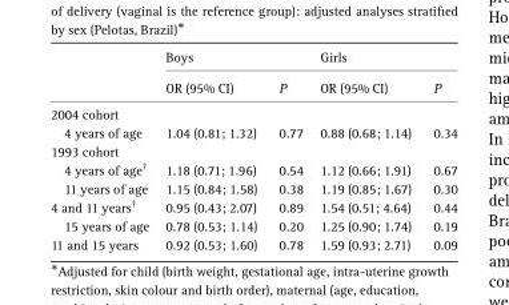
<table><thead><tr><td rowspan="2"></td><td colspan="2">Boys</td><td colspan="2">Girls</td></tr><tr><td>OR (95% CI)</td><td>P</td><td>OR (95% CI)</td><td>P</td></tr></thead><tbody><tr><td colspan="5">2004 cohort</td></tr><tr><td>4 years of age</td><td>1.04 (0.81; 1.32)</td><td>0.77</td><td>0.88 (0.68; 1.14)</td><td>0.34</td></tr><tr><td colspan="5">1993 cohort</td></tr><tr><td>4 years of age†</td><td>1.18 (0.71; 1.96)</td><td>0.54</td><td>1.12 (0.66; 1.91)</td><td>0.67</td></tr><tr><td>11 years of age</td><td>1.15 (0.84; 1.58)</td><td>0.38</td><td>1.19 (0.85; 1.67)</td><td>0.30</td></tr><tr><td>4 and 11 years†</td><td>0.95 (0.43; 2.07)</td><td>0.89</td><td>1.54 (0.51; 4.64)</td><td>0.44</td></tr><tr><td>15 years of age</td><td>0.78 (0.53; 1.14)</td><td>0.20</td><td>1.25 (0.90; 1.74)</td><td>0.19</td></tr><tr><td>11 and 15 years</td><td>0.92 (0.53; 1.60)</td><td>0.78</td><td>1.59 (0.93; 2.71)</td><td>0.09</td></tr></tbody></table>